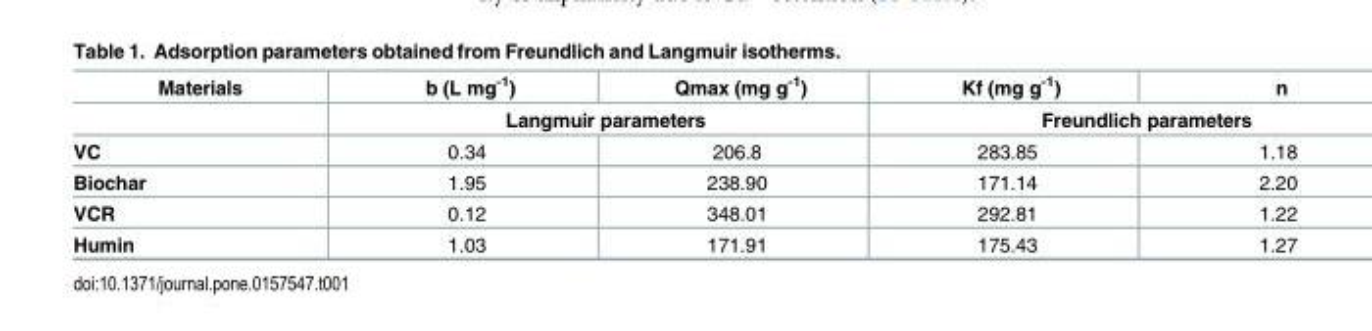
<table><thead><tr><td rowspan="2">Materials</td><td>b (L mg<sup>-1</sup>)</td><td>Qmax (mg g<sup>-1</sup>)</td><td>Kf (mg g<sup>-1</sup>)</td><td>n</td></tr><tr><td colspan="2">Langmuir parameters</td><td colspan="2">Freundlich parameters</td></tr></thead><tbody><tr><td>VC</td><td>0.34</td><td>206.8</td><td>283.85</td><td>1.18</td></tr><tr><td>Biochar</td><td>1.95</td><td>238.90</td><td>171.14</td><td>2.20</td></tr><tr><td>VCR</td><td>0.12</td><td>348.01</td><td>292.81</td><td>1.22</td></tr><tr><td>Humin</td><td>1.03</td><td>171.91</td><td>175.43</td><td>1.27</td></tr></tbody></table>